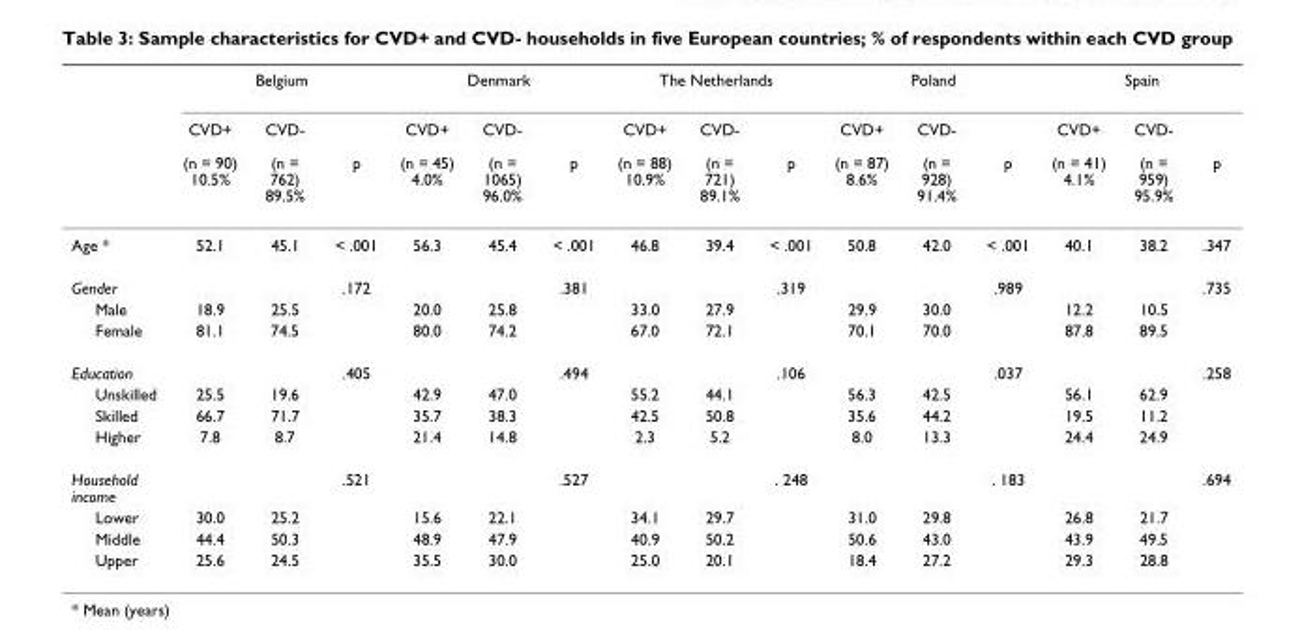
<table><thead><tr><td rowspan="2"></td><td colspan="3">Belgium</td><td colspan="3">Denmark</td><td colspan="3">The Netherlands</td><td colspan="3">Poland</td><td colspan="3">Spain</td></tr><tr><td>CVD+ (n = 90) 10.5%</td><td>CVD- (n = 762) 89.5%</td><td>p</td><td>CVD+ (n = 45) 4.0%</td><td>CVD- (n = 1065) 96.0%</td><td>p</td><td>CVD+ (n = 88) 10.9%</td><td>CVD- (n = 721) 89.1%</td><td>p</td><td>CVD+ (n = 87) 8.6%</td><td>CVD- (n = 928) 91.4%</td><td>p</td><td>CVD+ (n = 41) 4.1%</td><td>CVD- (n = 959) 95.9%</td><td>p</td></tr></thead><tbody><tr><td>Age *</td><td>52.1</td><td>45.1</td><td>&lt; .001</td><td>56.3</td><td>45.4</td><td>&lt; .001</td><td>46.8</td><td>39.4</td><td>&lt; .001</td><td>50.8</td><td>42.0</td><td>&lt; .001</td><td>40.1</td><td>38.2</td><td>.347</td></tr><tr><td>Gender</td><td></td><td></td><td>.172</td><td></td><td></td><td>.381</td><td></td><td></td><td>.319</td><td></td><td></td><td>.989</td><td></td><td></td><td>.735</td></tr><tr><td>Male</td><td>18.9</td><td>25.5</td><td></td><td>20.0</td><td>25.8</td><td></td><td>33.0</td><td>27.9</td><td></td><td>29.9</td><td>30.0</td><td></td><td>12.2</td><td>10.5</td><td></td></tr><tr><td>Female</td><td>81.1</td><td>74.5</td><td></td><td>80.0</td><td>74.2</td><td></td><td>67.0</td><td>72.1</td><td></td><td>70.1</td><td>70.0</td><td></td><td>87.8</td><td>89.5</td><td></td></tr><tr><td>Education</td><td></td><td></td><td>.405</td><td></td><td></td><td>.494</td><td></td><td></td><td>.106</td><td></td><td></td><td>.037</td><td></td><td></td><td>.258</td></tr><tr><td>Unskilled</td><td>25.5</td><td>19.6</td><td></td><td>42.9</td><td>47.0</td><td></td><td>55.2</td><td>44.1</td><td></td><td>56.3</td><td>42.5</td><td></td><td>56.1</td><td>62.9</td><td></td></tr><tr><td>Skilled</td><td>66.7</td><td>71.7</td><td></td><td>35.7</td><td>38.3</td><td></td><td>42.5</td><td>50.8</td><td></td><td>35.6</td><td>44.2</td><td></td><td>19.5</td><td>11.2</td><td></td></tr><tr><td>Higher</td><td>7.8</td><td>8.7</td><td></td><td>21.4</td><td>14.8</td><td></td><td>2.3</td><td>5.2</td><td></td><td>8.0</td><td>13.3</td><td></td><td>24.4</td><td>24.9</td><td></td></tr><tr><td>Household income</td><td></td><td></td><td>.521</td><td></td><td></td><td>.527</td><td></td><td></td><td>. 248</td><td></td><td></td><td>. 183</td><td></td><td></td><td>.694</td></tr><tr><td>Lower</td><td>30.0</td><td>25.2</td><td></td><td>15.6</td><td>22.1</td><td></td><td>34.1</td><td>29.7</td><td></td><td>31.0</td><td>29.8</td><td></td><td>26.8</td><td>21.7</td><td></td></tr><tr><td>Middle</td><td>44.4</td><td>50.3</td><td></td><td>48.9</td><td>47.9</td><td></td><td>40.9</td><td>50.2</td><td></td><td>50.6</td><td>43.0</td><td></td><td>43.9</td><td>49.5</td><td></td></tr><tr><td>Upper</td><td>25.6</td><td>24.5</td><td></td><td>35.5</td><td>30.0</td><td></td><td>25.0</td><td>20.1</td><td></td><td>18.4</td><td>27.2</td><td></td><td>29.3</td><td>28.8</td><td></td></tr></tbody></table>